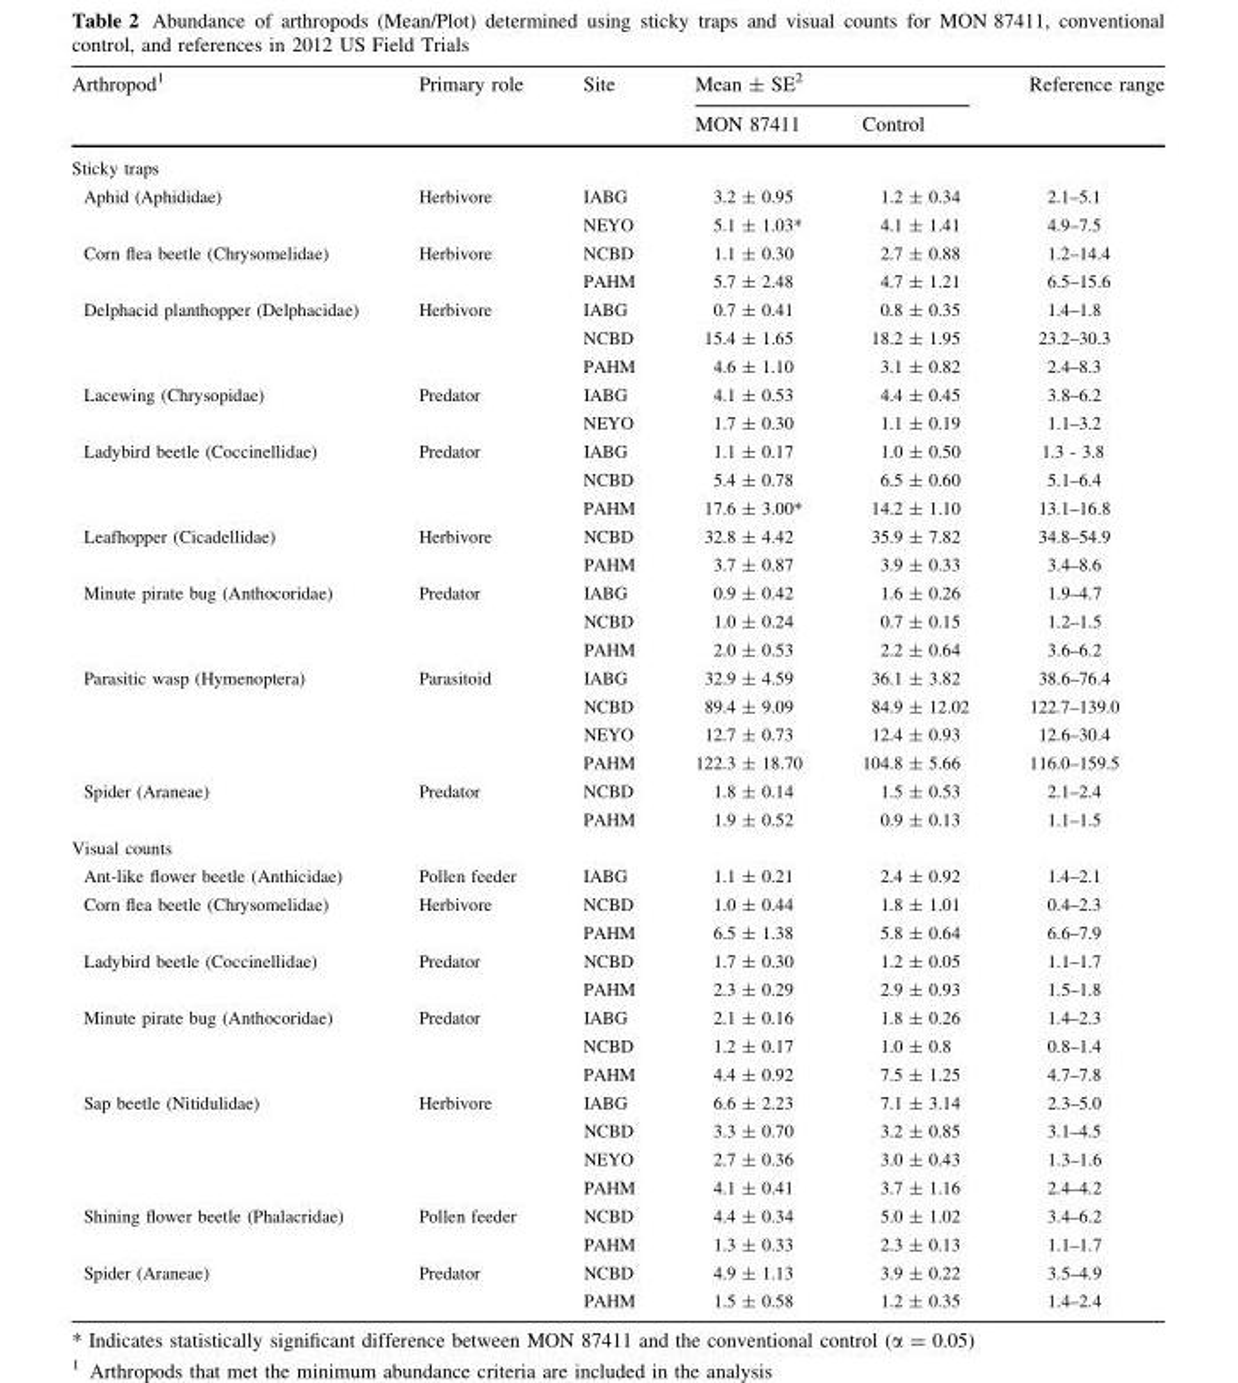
<table><thead><tr><td rowspan="2">Arthropod<sup>1</sup></td><td rowspan="2">Primary role</td><td rowspan="2">Site</td><td colspan="2">Mean ± SE<sup>2</sup></td><td rowspan="2">Reference range</td></tr><tr><td>MON 87411</td><td>Control</td></tr></thead><tbody><tr><td colspan="6">Sticky traps</td></tr><tr><td rowspan="2">Aphid (Aphididae)</td><td rowspan="2">Herbivore</td><td>IABG</td><td>3.2 ± 0.95</td><td>1.2 ± 0.34</td><td>2.1–5.1</td></tr><tr><td>NEYO</td><td>5.1 ± 1.03*</td><td>4.1 ± 1.41</td><td>4.9–7.5</td></tr><tr><td rowspan="2">Corn flea beetle (Chrysomelidae)</td><td rowspan="2">Herbivore</td><td>NCBD</td><td>1.1 ± 0.30</td><td>2.7 ± 0.88</td><td>1.2–14.4</td></tr><tr><td>PAHM</td><td>5.7 ± 2.48</td><td>4.7 ± 1.21</td><td>6.5–15.6</td></tr><tr><td rowspan="3">Delphacid planthopper (Delphacidae)</td><td rowspan="3">Herbivore</td><td>IABG</td><td>0.7 ± 0.41</td><td>0.8 ± 0.35</td><td>1.4–1.8</td></tr><tr><td>NCBD</td><td>15.4 ± 1.65</td><td>18.2 ± 1.95</td><td>23.2–30.3</td></tr><tr><td>PAHM</td><td>4.6 ± 1.10</td><td>3.1 ± 0.82</td><td>2.4–8.3</td></tr><tr><td rowspan="2">Lacewing (Chrysopidae)</td><td rowspan="2">Predator</td><td>IABG</td><td>4.1 ± 0.53</td><td>4.4 ± 0.45</td><td>3.8–6.2</td></tr><tr><td>NEYO</td><td>1.7 ± 0.30</td><td>1.1 ± 0.19</td><td>1.1–3.2</td></tr><tr><td rowspan="3">Ladybird beetle (Coccinellidae)</td><td rowspan="3">Predator</td><td>IABG</td><td>1.1 ± 0.17</td><td>1.0 ± 0.50</td><td>1.3 - 3.8</td></tr><tr><td>NCBD</td><td>5.4 ± 0.78</td><td>6.5 ± 0.60</td><td>5.1–6.4</td></tr><tr><td>PAHM</td><td>17.6 ± 3.00*</td><td>14.2 ± 1.10</td><td>13.1–16.8</td></tr><tr><td rowspan="2">Leafhopper (Cicadellidae)</td><td rowspan="2">Herbivore</td><td>NCBD</td><td>32.8 ± 4.42</td><td>35.9 ± 7.82</td><td>34.8–54.9</td></tr><tr><td>PAHM</td><td>3.7 ± 0.87</td><td>3.9 ± 0.33</td><td>3.4–8.6</td></tr><tr><td rowspan="3">Minute pirate bug (Anthocoridae)</td><td rowspan="3">Predator</td><td>IABG</td><td>0.9 ± 0.42</td><td>1.6 ± 0.26</td><td>1.9–4.7</td></tr><tr><td>NCBD</td><td>1.0 ± 0.24</td><td>0.7 ± 0.15</td><td>1.2–1.5</td></tr><tr><td>PAHM</td><td>2.0 ± 0.53</td><td>2.2 ± 0.64</td><td>3.6–6.2</td></tr><tr><td rowspan="4">Parasitic wasp (Hymenoptera)</td><td rowspan="4">Parasitoid</td><td>IABG</td><td>32.9 ± 4.59</td><td>36.1 ± 3.82</td><td>38.6–76.4</td></tr><tr><td>NCBD</td><td>89.4 ± 9.09</td><td>84.9 ± 12.02</td><td>122.7–139.0</td></tr><tr><td>NEYO</td><td>12.7 ± 0.73</td><td>12.4 ± 0.93</td><td>12.6–30.4</td></tr><tr><td>PAHM</td><td>122.3 ± 18.70</td><td>104.8 ± 5.66</td><td>116.0–159.5</td></tr><tr><td rowspan="2">Spider (Araneae)</td><td rowspan="2">Predator</td><td>NCBD</td><td>1.8 ± 0.14</td><td>1.5 ± 0.53</td><td>2.1–2.4</td></tr><tr><td>PAHM</td><td>1.9 ± 0.52</td><td>0.9 ± 0.13</td><td>1.1–1.5</td></tr><tr><td colspan="6">Visual counts</td></tr><tr><td>Ant-like flower beetle (Anthicidae)</td><td>Pollen feeder</td><td>IABG</td><td>1.1 ± 0.21</td><td>2.4 ± 0.92</td><td>1.4–2.1</td></tr><tr><td rowspan="2">Corn flea beetle (Chrysomelidae)</td><td rowspan="2">Herbivore</td><td>NCBD</td><td>1.0 ± 0.44</td><td>1.8 ± 1.01</td><td>0.4–2.3</td></tr><tr><td>PAHM</td><td>6.5 ± 1.38</td><td>5.8 ± 0.64</td><td>6.6–7.9</td></tr><tr><td rowspan="2">Ladybird beetle (Coccinellidae)</td><td rowspan="2">Predator</td><td>NCBD</td><td>1.7 ± 0.30</td><td>1.2 ± 0.05</td><td>1.1–1.7</td></tr><tr><td>PAHM</td><td>2.3 ± 0.29</td><td>2.9 ± 0.93</td><td>1.5–1.8</td></tr><tr><td rowspan="3">Minute pirate bug (Anthocoridae)</td><td rowspan="3">Predator</td><td>IABG</td><td>2.1 ± 0.16</td><td>1.8 ± 0.26</td><td>1.4–2.3</td></tr><tr><td>NCBD</td><td>1.2 ± 0.17</td><td>1.0 ± 0.8</td><td>0.8–1.4</td></tr><tr><td>PAHM</td><td>4.4 ± 0.92</td><td>7.5 ± 1.25</td><td>4.7–7.8</td></tr><tr><td rowspan="4">Sap beetle (Nitidulidae)</td><td rowspan="4">Herbivore</td><td>IABG</td><td>6.6 ± 2.23</td><td>7.1 ± 3.14</td><td>2.3–5.0</td></tr><tr><td>NCBD</td><td>3.3 ± 0.70</td><td>3.2 ± 0.85</td><td>3.1–4.5</td></tr><tr><td>NEYO</td><td>2.7 ± 0.36</td><td>3.0 ± 0.43</td><td>1.3–1.6</td></tr><tr><td>PAHM</td><td>4.1 ± 0.41</td><td>3.7 ± 1.16</td><td>2.4–4.2</td></tr><tr><td rowspan="2">Shining flower beetle (Phalacridae)</td><td rowspan="2">Pollen feeder</td><td>NCBD</td><td>4.4 ± 0.34</td><td>5.0 ± 1.02</td><td>3.4–6.2</td></tr><tr><td>PAHM</td><td>1.3 ± 0.33</td><td>2.3 ± 0.13</td><td>1.1–1.7</td></tr><tr><td rowspan="2">Spider (Araneae)</td><td rowspan="2">Predator</td><td>NCBD</td><td>4.9 ± 1.13</td><td>3.9 ± 0.22</td><td>3.5–4.9</td></tr><tr><td>PAHM</td><td>1.5 ± 0.58</td><td>1.2 ± 0.35</td><td>1.4–2.4</td></tr></tbody></table>